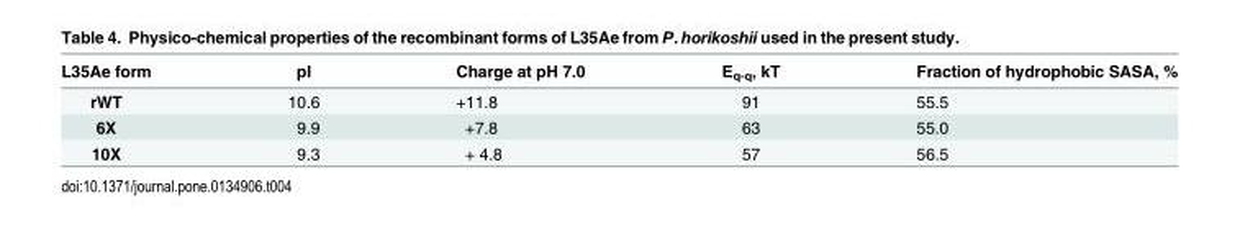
<table><thead><tr><td>L35Ae form</td><td>pI</td><td>Charge at pH 7.0</td><td>E<sub>q-q</sub>, kT</td><td>Fraction of hydrophobic SASA, %</td></tr></thead><tbody><tr><td>rWT</td><td>10.6</td><td>+11.8</td><td>91</td><td>55.5</td></tr><tr><td>6X</td><td>9.9</td><td>+7.8</td><td>63</td><td>55.0</td></tr><tr><td>10X</td><td>9.3</td><td>+ 4.8</td><td>57</td><td>56.5</td></tr></tbody></table>